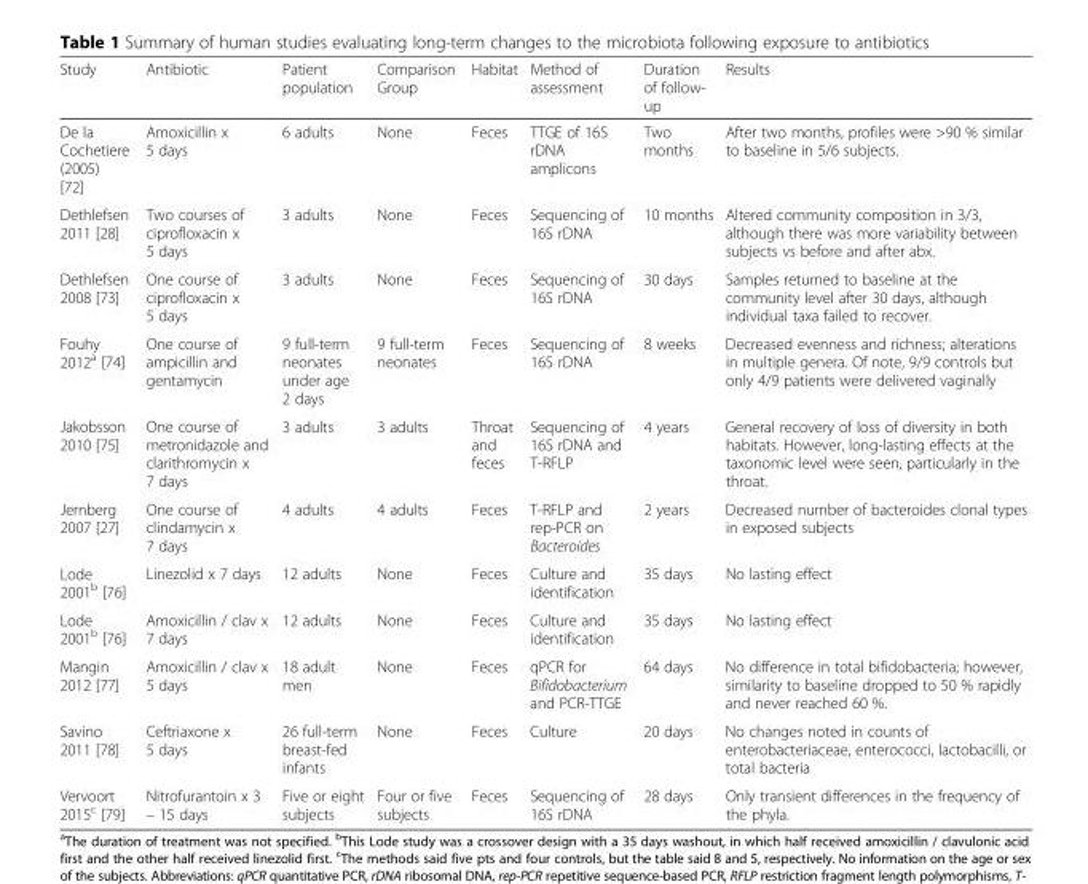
<table><thead><tr><td>Study</td><td>Antibiotic</td><td>Patient population</td><td>Comparison Group</td><td>Habitat</td><td>Method of assessment</td><td>Duration of follow- up</td><td>Results</td></tr></thead><tbody><tr><td>De la Cochetiere (2005) [72]</td><td>Amoxicillin x 5 days</td><td>6 adults</td><td>None</td><td>Feces</td><td>TTGE of 16S rDNA amplicons</td><td>Two months</td><td>After two months, profiles were &gt;90 % similar to baseline in 5/6 subjects.</td></tr><tr><td>Dethlefsen 2011 [28]</td><td>Two courses of ciprofloxacin x 5 days</td><td>3 adults</td><td>None</td><td>Feces</td><td>Sequencing of 16S rDNA</td><td>10 months</td><td>Altered community composition in 3/3, although there was more variability between subjects vs before and after abx.</td></tr><tr><td>Dethlefsen 2008 [73]</td><td>One course of ciprofloxacin x 5 days</td><td>3 adults</td><td>None</td><td>Feces</td><td>Sequencing of 16S rDNA</td><td>30 days</td><td>Samples returned to baseline at the community level after 30 days, although individual taxa failed to recover.</td></tr><tr><td>Fouhy 2012<sup>a</sup> [74]</td><td>One course of ampicillin and gentamycin</td><td>9 full-term neonates under age 2 days</td><td>9 full-term neonates</td><td>Feces</td><td>Sequencing of 16S rDNA</td><td>8 weeks</td><td>Decreased evenness and richness; alterations in multiple genera. Of note, 9/9 controls but only 4/9 patients were delivered vaginally</td></tr><tr><td>Jakobsson 2010 [75]</td><td>One course of metronidazole and clarithromycin x 7 days</td><td>3 adults</td><td>3 adults</td><td>Throat and feces</td><td>Sequencing of 16S rDNA and T-RFLP</td><td>4 years</td><td>General recovery of loss of diversity in both habitats. However, long-lasting effects at the taxonomic level were seen, particularly in the throat.</td></tr><tr><td>Jernberg 2007 [27]</td><td>One course of clindamycin x 7 days</td><td>4 adults</td><td>4 adults</td><td>Feces</td><td>T-RFLP and rep-PCR on Bacteroides</td><td>2 years</td><td>Decreased number of bacteroides clonal types in exposed subjects</td></tr><tr><td>Lode 2001<sup>b</sup> [76]</td><td>Linezolid x 7 days</td><td>12 adults</td><td>None</td><td>Feces</td><td>Culture and identification</td><td>35 days</td><td>No lasting effect</td></tr><tr><td>Lode 2001<sup>b</sup> [76]</td><td>Amoxicillin / clav x 7 days</td><td>12 adults</td><td>None</td><td>Feces</td><td>Culture and identification</td><td>35 days</td><td>No lasting effect</td></tr><tr><td>Mangin 2012 [77]</td><td>Amoxicillin / clav x 5 days</td><td>18 adult men</td><td>None</td><td>Feces</td><td>qPCR for Bifidobacterium and PCR-TTGE</td><td>64 days</td><td>No difference in total bifidobacteria; however, similarity to baseline dropped to 50 % rapidly and never reached 60 %.</td></tr><tr><td>Savino 2011 [78]</td><td>Ceftriaxone x 5 days</td><td>26 full-term breast-fed infants</td><td>None</td><td>Feces</td><td>Culture</td><td>20 days</td><td>No changes noted in counts of enterobacteriaceae, enterococci, lactobacilli, or total bacteria</td></tr><tr><td>Vervoort 2015<sup>c</sup> [79]</td><td>Nitrofurantoin x 3 – 15 days</td><td>Five or eight subjects</td><td>Four or five subjects</td><td>Feces</td><td>Sequencing of 16S rDNA</td><td>28 days</td><td>Only transient differences in the frequency of the phyla.</td></tr></tbody></table>